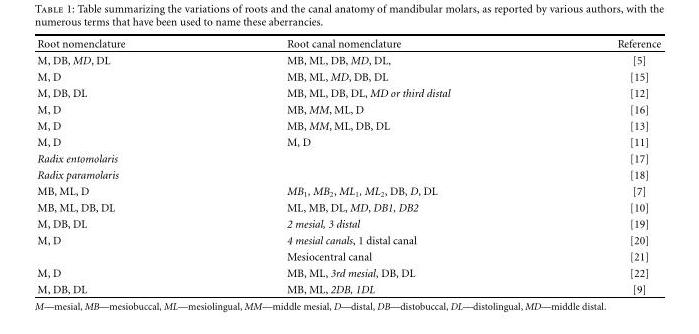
<table><thead><tr><td>Root nomenclature</td><td>Root canal nomenclature</td><td>Reference</td></tr></thead><tbody><tr><td>M, DB, MD, DL</td><td>MB, ML, DB, MD, DL,</td><td>[5]</td></tr><tr><td>M, D</td><td>MB, ML, MD, DB, DL</td><td>[15]</td></tr><tr><td>M, DB, DL</td><td>MB, ML, DB, DL, MD or third distal</td><td>[12]</td></tr><tr><td>M, D</td><td>MB, MM, ML, D</td><td>[16]</td></tr><tr><td>M, D</td><td>MB, MM, ML, DB, DL</td><td>[13]</td></tr><tr><td>M, D</td><td>M, D</td><td>[11]</td></tr><tr><td>Radix entomolaris</td><td></td><td>[17]</td></tr><tr><td>Radix paramolaris</td><td></td><td>[18]</td></tr><tr><td>MB, ML, D</td><td>MB<sub>1</sub>, MB<sub>2</sub>, ML<sub>1</sub>, ML<sub>2</sub>, DB, D, DL</td><td>[7]</td></tr><tr><td>MB, ML, DB, DL</td><td>ML, MB, DL, MD, DB1, DB2</td><td>[10]</td></tr><tr><td>M, DB, DL</td><td>2 mesial, 3 distal</td><td>[19]</td></tr><tr><td rowspan="2">M, D</td><td>4 mesial canals, 1 distal canal</td><td>[20]</td></tr><tr><td>Mesiocentral canal</td><td>[21]</td></tr><tr><td>M, D</td><td>MB, ML, 3rd mesial, DB, DL</td><td>[22]</td></tr><tr><td>M, DB, DL</td><td>MB, ML, 2DB, 1DL</td><td>[9]</td></tr></tbody></table>